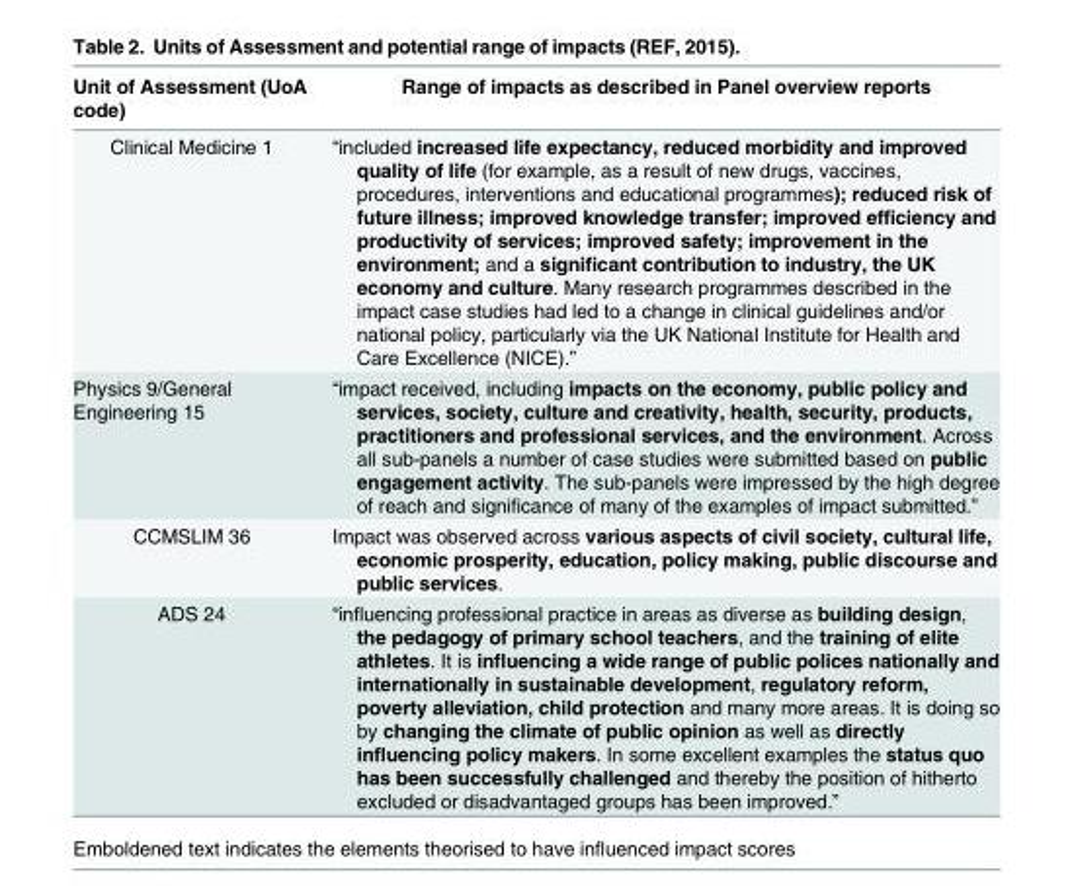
<table><thead><tr><td>Unit of Assessment (UoA code)</td><td>Range of impacts as described in Panel overview reports</td></tr></thead><tbody><tr><td>Clinical Medicine 1</td><td>“included increased life expectancy, reduced morbidity and improved quality of life (for example, as a result of new drugs, vaccines, procedures, interventions and educational programmes); reduced risk of future illness; improved knowledge transfer; improved efficiency and productivity of services; improved safety; improvement in the environment; and a significant contribution to industry, the UK economy and culture. Many research programmes described in the impact case studies had led to a change in clinical guidelines and/or national policy, particularly via the UK National Institute for Health and Care Excellence (NICE).”</td></tr><tr><td>Physics 9/General Engineering 15</td><td>“impact received, including impacts on the economy, public policy and services, society, culture and creativity, health, security, products, practitioners and professional services, and the environment. Across all sub-panels a number of case studies were submitted based on public engagement activity. The sub-panels were impressed by the high degree of reach and significance of many of the examples of impact submitted.”</td></tr><tr><td>CCMSLIM 36</td><td>Impact was observed across various aspects of civil society, cultural life, economic prosperity, education, policy making, public discourse and public services.</td></tr><tr><td>ADS 24</td><td>“influencing professional practice in areas as diverse as building design, the pedagogy of primary school teachers, and the training of elite athletes. It is influencing a wide range of public polices nationally and internationally in sustainable development, regulatory reform, poverty alleviation, child protection and many more areas. It is doing so by changing the climate of public opinion as well as directly influencing policy makers. In some excellent examples the status quo has been successfully challenged and thereby the position of hitherto excluded or disadvantaged groups has been improved.”</td></tr></tbody></table>